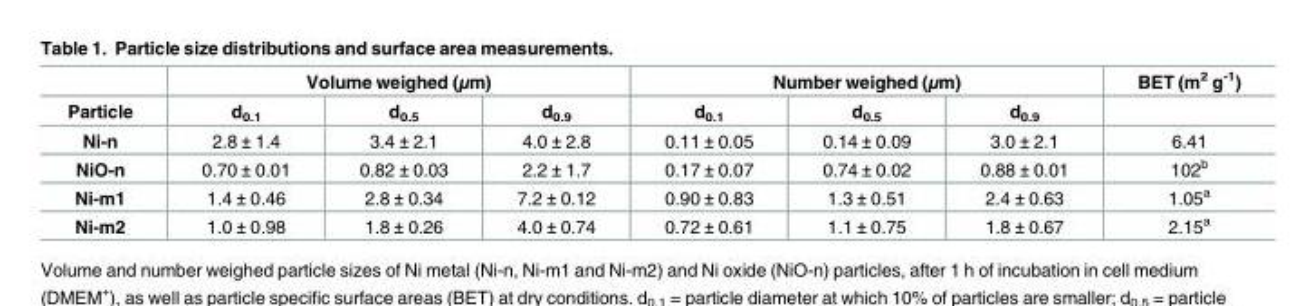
<table><thead><tr><td rowspan="2">Particle</td><td colspan="3">Volume weighed (μm)</td><td colspan="3">Number weighed (μm)</td><td rowspan="2">BET (m<sup>2</sup> g<sup>-1</sup>)</td></tr><tr><td>d<sub>0.1</sub></td><td>d<sub>0.5</sub></td><td>d<sub>0.9</sub></td><td>d<sub>0.1</sub></td><td>d<sub>0.5</sub></td><td>d<sub>0.9</sub></td></tr></thead><tbody><tr><td>Ni-n</td><td>2.8 ± 1.4</td><td>3.4 ± 2.1</td><td>4.0 ± 2.8</td><td>0.11 ± 0.05</td><td>0.14 ± 0.09</td><td>3.0 ± 2.1</td><td>6.41</td></tr><tr><td>NiO-n</td><td>0.70 ± 0.01</td><td>0.82 ± 0.03</td><td>2.2 ± 1.7</td><td>0.17 ± 0.07</td><td>0.74 ± 0.02</td><td>0.88 ± 0.01</td><td>102<sup>b</sup></td></tr><tr><td>Ni-m1</td><td>1.4 ± 0.46</td><td>2.8 ± 0.34</td><td>7.2 ± 0.12</td><td>0.90 ± 0.83</td><td>1.3 ± 0.51</td><td>2.4 ± 0.63</td><td>1.05<sup>a</sup></td></tr><tr><td>Ni-m2</td><td>1.0 ± 0.98</td><td>1.8 ± 0.26</td><td>4.0 ± 0.74</td><td>0.72 ± 0.61</td><td>1.1 ± 0.75</td><td>1.8 ± 0.67</td><td>2.15<sup>a</sup></td></tr></tbody></table>